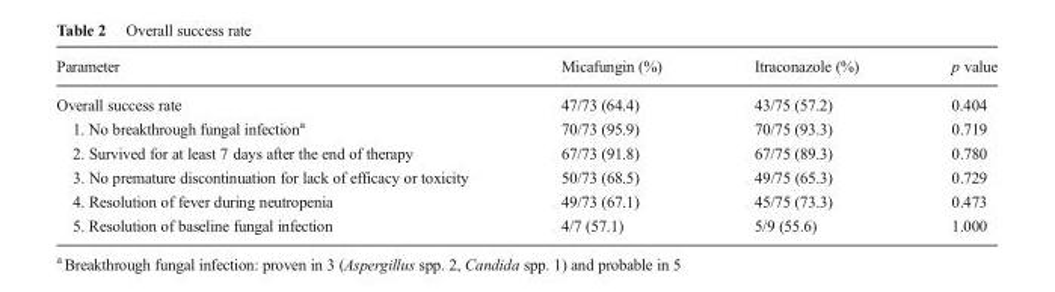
<table><thead><tr><td>Parameter</td><td>Micafungin (%)</td><td>Itraconazole (%)</td><td>p value</td></tr></thead><tbody><tr><td>Overall success rate</td><td>47/73 (64.4)</td><td>43/75 (57.2)</td><td>0.404</td></tr><tr><td>1. No breakthrough fungal infection<sup>a</sup></td><td>70/73 (95.9)</td><td>70/75 (93.3)</td><td>0.719</td></tr><tr><td>2. Survived for at least 7 days after the end of therapy</td><td>67/73 (91.8)</td><td>67/75 (89.3)</td><td>0.780</td></tr><tr><td>3. No premature discontinuation for lack of efficacy or toxicity</td><td>50/73 (68.5)</td><td>49/75 (65.3)</td><td>0.729</td></tr><tr><td>4. Resolution of fever during neutropenia</td><td>49/73 (67.1)</td><td>45/75 (73.3)</td><td>0.473</td></tr><tr><td>5. Resolution of baseline fungal infection</td><td>4/7 (57.1)</td><td>5/9 (55.6)</td><td>1.000</td></tr></tbody></table>